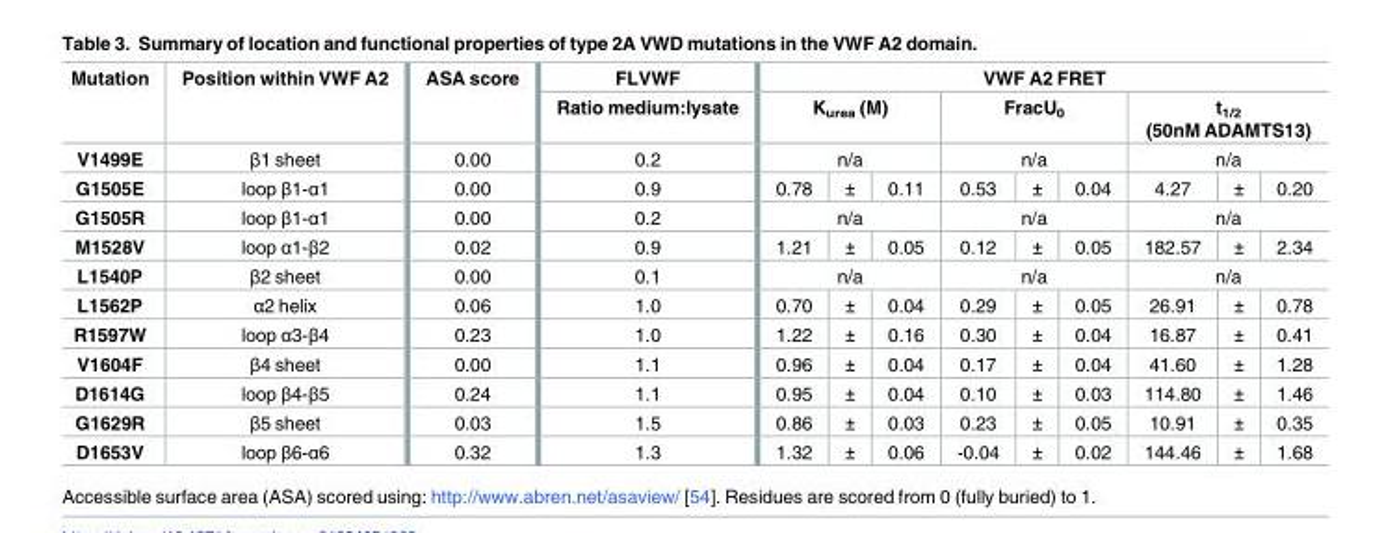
<table><thead><tr><td rowspan="4">Mutation V1499E G1505E</td><td rowspan="4">Position within VWF A2 β1 sheet loop β1-α1</td><td rowspan="4">ASA score 0.00 0.00</td><td rowspan="4">FLVWF Ratio medium:lysate 0.2 0.9</td><td colspan="9">VWF A2 FRET</td></tr><tr><td rowspan="2" colspan="3">K<sub>urea</sub> (M) n/a</td><td rowspan="2" colspan="3">FracU<sub>0</sub> n/a</td><td rowspan="2" colspan="3">t<sub>1/2</sub> (50nM ADAMTS13) n/a</td></tr><tr></tr><tr><td>0.78</td><td>±</td><td>0.11</td><td>0.53</td><td>±</td><td>0.04</td><td>4.27</td><td>±</td><td>0.20</td></tr></thead><tbody><tr><td>G1505R</td><td>loop β1-α1</td><td>0.00</td><td>0.2</td><td colspan="3">n/a</td><td colspan="3">n/a</td><td colspan="3">n/a</td></tr><tr><td>M1528V</td><td>loop α1-β2</td><td>0.02</td><td>0.9</td><td>1.21</td><td>±</td><td>0.05</td><td>0.12</td><td>±</td><td>0.05</td><td>182.57</td><td>±</td><td>2.34</td></tr><tr><td>L1540P</td><td>β2 sheet</td><td>0.00</td><td>0.1</td><td colspan="3">n/a</td><td colspan="3">n/a</td><td colspan="3">n/a</td></tr><tr><td>L1562P</td><td>α2 helix</td><td>0.06</td><td>1.0</td><td>0.70</td><td>±</td><td>0.04</td><td>0.29</td><td>±</td><td>0.05</td><td>26.91</td><td>±</td><td>0.78</td></tr><tr><td>R1597W</td><td>loop α3-β4</td><td>0.23</td><td>1.0</td><td>1.22</td><td>±</td><td>0.16</td><td>0.30</td><td>±</td><td>0.04</td><td>16.87</td><td>±</td><td>0.41</td></tr><tr><td>V1604F</td><td>β4 sheet</td><td>0.00</td><td>1.1</td><td>0.96</td><td>±</td><td>0.04</td><td>0.17</td><td>±</td><td>0.04</td><td>41.60</td><td>±</td><td>1.28</td></tr><tr><td>D1614G</td><td>loop β4-β5</td><td>0.24</td><td>1.1</td><td>0.95</td><td>±</td><td>0.04</td><td>0.10</td><td>±</td><td>0.03</td><td>114.80</td><td>±</td><td>1.46</td></tr><tr><td>G1629R</td><td>β5 sheet</td><td>0.03</td><td>1.5</td><td>0.86</td><td>±</td><td>0.03</td><td>0.23</td><td>±</td><td>0.05</td><td>10.91</td><td>±</td><td>0.35</td></tr><tr><td>D1653V</td><td>loop β6-α6</td><td>0.32</td><td>1.3</td><td>1.32</td><td>±</td><td>0.06</td><td>-0.04</td><td>±</td><td>0.02</td><td>144.46</td><td>±</td><td>1.68</td></tr></tbody></table>